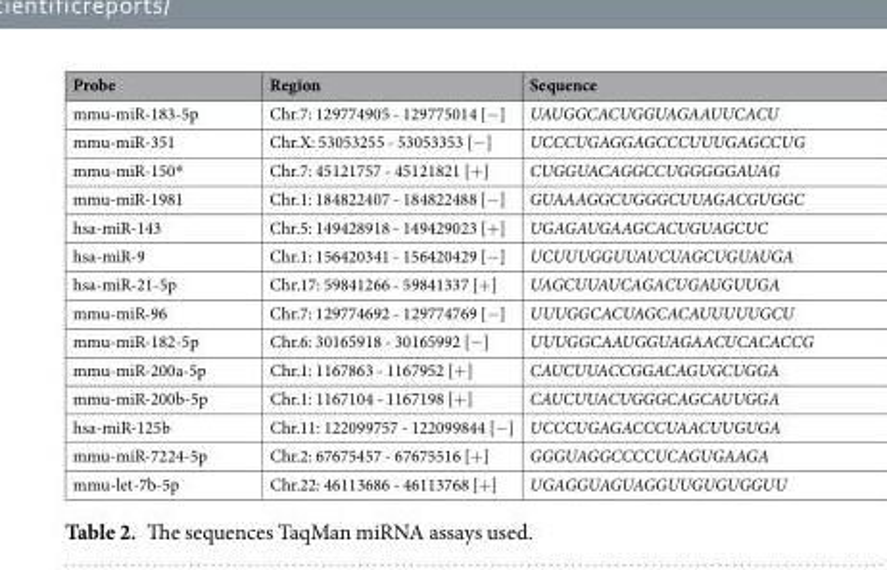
<table><thead><tr><td>Probe</td><td>Region</td><td>Sequence</td></tr></thead><tbody><tr><td>mmu-miR-183-5p</td><td>Chr.7: 129774905 - 129775014 [−]</td><td>UAUGGCACUGGUAGAAUUCACU</td></tr><tr><td>mmu-miR-351</td><td>Chr.X: 53053255 - 53053353 [−]</td><td>UCCCUGAGGAGCCCUUUGAGCCUG</td></tr><tr><td>mmu-miR-150*</td><td>Chr.7: 45121757 - 45121821 [+]</td><td>CUGGUACAGGCCUGGGGGAUAG</td></tr><tr><td>mmu-miR-1981</td><td>Chr.1: 184822407 - 184822488 [−]</td><td>GUAAAGGCUGGGCUUAGACGUGGC</td></tr><tr><td>hsa-miR-143</td><td>Chr.5: 149428918 - 149429023 [+]</td><td>UGAGAUGAAGCACUGUAGCUC</td></tr><tr><td>hsa-miR-9</td><td>Chr.1: 156420341 - 156420429 [−]</td><td>UCUUUGGUUAUCUAGCUGUAUGA</td></tr><tr><td>hsa-miR-21-5p</td><td>Chr.17: 59841266 - 59841337 [+]</td><td>UAGCUUAUCAGACUGAUGUUGA</td></tr><tr><td>mmu-miR-96</td><td>Chr.7: 129774692 - 129774769 [−]</td><td>UUUGGCACUAGCACAUUUUUGCU</td></tr><tr><td>mmu-miR-182-5p</td><td>Chr.6: 30165918 - 30165992 [−]</td><td>UUUGGCAAUGGUAGAACUCACACCG</td></tr><tr><td>mmu-miR-200a-5p</td><td>Chr.1: 1167863 - 1167952 [+]</td><td>CAUCUUACCGGACAGUGCUGGA</td></tr><tr><td>mmu-miR-200b-5p</td><td>Chr.1: 1167104 - 1167198 [+]</td><td>CAUCUUACUGGGCAGCAUUGGA</td></tr><tr><td>hsa-miR-125b</td><td>Chr.11: 122099757 - 122099844 [−]</td><td>UCCCUGAGACCCUAACUUGUGA</td></tr><tr><td>mmu-miR-7224-5p</td><td>Chr.2: 67675457 - 67675516 [+]</td><td>GGGUAGGCCCCUCAGUGAAGA</td></tr><tr><td>mmu-let-7b-5p</td><td>Chr.22: 46113686 - 46113768 [+]</td><td>UGAGGUAGUAGGUUGUGUGGUU</td></tr></tbody></table>